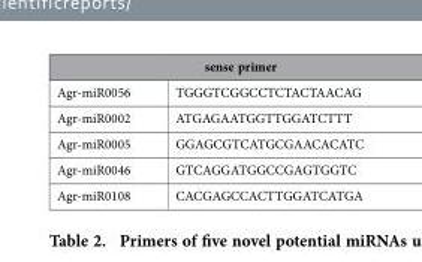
<table><thead><tr><td colspan="2">sense primer</td></tr><tr><td>Agr-miR0056</td><td>TGGGTCGGCCTCTACTAACAG</td></tr></thead><tbody><tr><td>Agr-miR0002</td><td>ATGAGAATGGTTGGATCTTT</td></tr><tr><td>Agr-miR0005</td><td>GGAGCGTCATGCGAACACATC</td></tr><tr><td>Agr-miR0046</td><td>GTCAGGATGGCCGAGTGGTC</td></tr><tr><td>Agr-miR0108</td><td>CACGAGCCACTTGGATCATGA</td></tr></tbody></table>